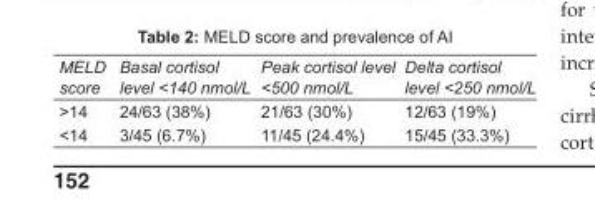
<table><tbody><tr><td>MELD score</td><td>Basal cortisol level &lt;140 nmol/L</td><td>Peak cortisol level &lt;500 nmol/L</td><td>Delta cortisol level &lt;250 nmol/L</td></tr><tr><td>&gt;14</td><td>24/63 (38%)</td><td>21/63 (30%)</td><td>12/63 (19%)</td></tr><tr><td>&lt;14</td><td>3/45 (6.7%)</td><td>11/45 (24.4%)</td><td>15/45 (33.3%)</td></tr></tbody></table>